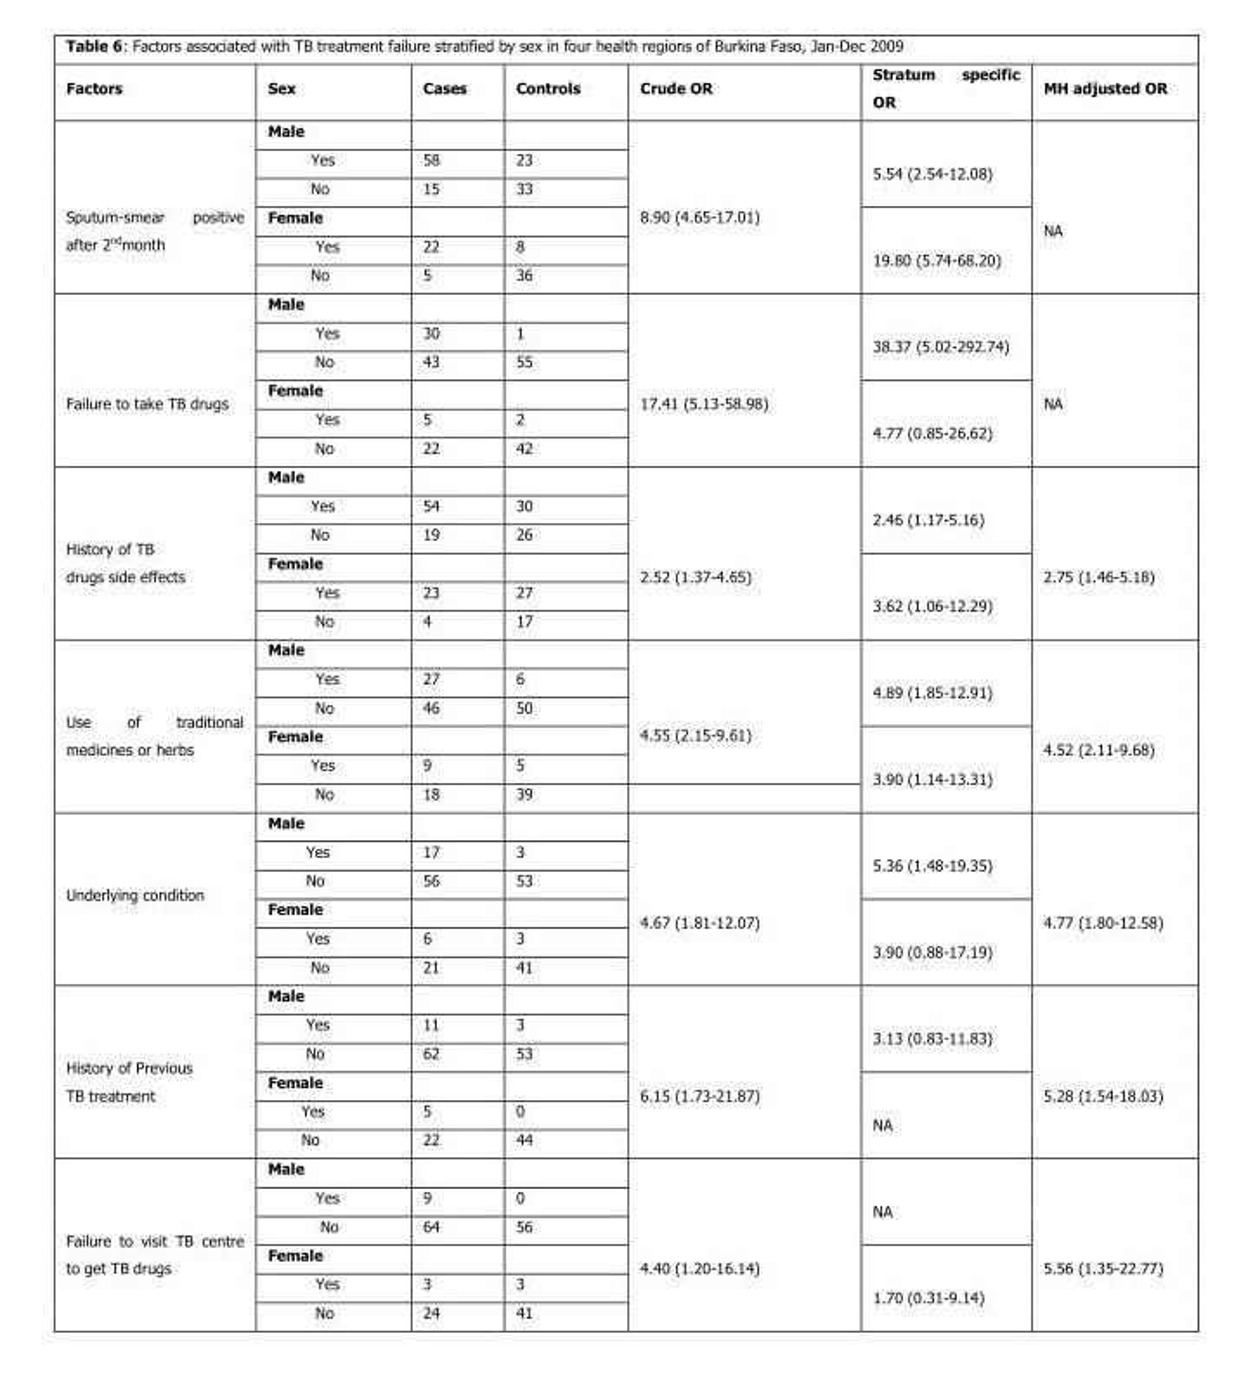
<table><thead><tr><td>Factors</td><td>Sex</td><td>Cases</td><td>Controls</td><td>Crude OR</td><td>Stratum specific OR</td><td>MH adjusted OR</td></tr></thead><tbody><tr><td rowspan="6">Sputum-smear positive after 2<sup>nd</sup>month</td><td>Male</td><td></td><td></td><td rowspan="6">8.90 (4.65-17.01)</td><td rowspan="3">5.54 (2.54-12.08)</td><td rowspan="6">NA</td></tr><tr><td>Yes</td><td>58</td><td>23</td></tr><tr><td>No</td><td>15</td><td>33</td></tr><tr><td>Female</td><td></td><td></td><td rowspan="3">19.80 (5.74-68.20)</td></tr><tr><td>Yes</td><td>22</td><td>8</td></tr><tr><td>No</td><td>5</td><td>36</td></tr><tr><td rowspan="6">Failure to take TB drugs</td><td>Male</td><td></td><td></td><td rowspan="6">17.41 (5.13-58.98)</td><td rowspan="3">38.37 (5.02-292.74)</td><td rowspan="6">NA</td></tr><tr><td>Yes</td><td>30</td><td>1</td></tr><tr><td>No</td><td>43</td><td>55</td></tr><tr><td>Female</td><td></td><td></td><td rowspan="3">4.77 (0.85-26.62)</td></tr><tr><td>Yes</td><td>5</td><td>2</td></tr><tr><td>No</td><td>22</td><td>42</td></tr><tr><td rowspan="6">History of TB drugs side effects</td><td>Male</td><td></td><td></td><td rowspan="6">2.52 (1.37-4.65)</td><td rowspan="3">2.46 (1.17-5.16)</td><td rowspan="6">2.75 (1.46-5.18)</td></tr><tr><td>Yes</td><td>54</td><td>30</td></tr><tr><td>No</td><td>19</td><td>26</td></tr><tr><td>Female</td><td></td><td></td><td rowspan="3">3.62 (1.06-12.29)</td></tr><tr><td>Yes</td><td>23</td><td>27</td></tr><tr><td>No</td><td>4</td><td>17</td></tr><tr><td rowspan="6">Use of traditional medicines or herbs</td><td>Male</td><td></td><td></td><td rowspan="6">4.55 (2.15-9.61)</td><td rowspan="3">4.89 (1.85-12.91)</td><td rowspan="6">4.52 (2.11-9.68)</td></tr><tr><td>Yes</td><td>27</td><td>6</td></tr><tr><td>No</td><td>46</td><td>50</td></tr><tr><td>Female</td><td></td><td></td><td rowspan="3">3.90 (1.14-13.31)</td></tr><tr><td>Yes</td><td>9</td><td>5</td></tr><tr><td>No</td><td>18</td><td>39</td></tr><tr><td rowspan="6">Underlying condition</td><td>Male</td><td></td><td></td><td rowspan="6">4.67 (1.81-12.07)</td><td rowspan="3">5.36 (1.48-19.35)</td><td rowspan="6">4.77 (1.80-12.58)</td></tr><tr><td>Yes</td><td>17</td><td>3</td></tr><tr><td>No</td><td>56</td><td>53</td></tr><tr><td>Female</td><td></td><td></td><td rowspan="3">3.90 (0.88-17.19)</td></tr><tr><td>Yes</td><td>6</td><td>3</td></tr><tr><td>No</td><td>21</td><td>41</td></tr><tr><td rowspan="6">History of Previous TB treatment</td><td>Male</td><td></td><td></td><td rowspan="6">6.15 (1.73-21.87)</td><td rowspan="3">3.13 (0.83-11.83)</td><td rowspan="6">5.28 (1.54-18.03)</td></tr><tr><td>Yes</td><td>11</td><td>3</td></tr><tr><td>No</td><td>62</td><td>53</td></tr><tr><td>Female</td><td></td><td></td><td rowspan="3">NA</td></tr><tr><td>Yes</td><td>5</td><td>0</td></tr><tr><td>No</td><td>22</td><td>44</td></tr><tr><td rowspan="6">Failure to visit TB centre to get TB drugs</td><td>Male</td><td></td><td></td><td rowspan="6">4.40 (1.20-16.14)</td><td rowspan="3">NA</td><td rowspan="6">5.56 (1.35-22.77)</td></tr><tr><td>Yes</td><td>9</td><td>0</td></tr><tr><td>No</td><td>64</td><td>56</td></tr><tr><td>Female</td><td></td><td></td><td rowspan="3">1.70 (0.31-9.14)</td></tr><tr><td>Yes</td><td>3</td><td>3</td></tr><tr><td>No</td><td>24</td><td>41</td></tr></tbody></table>